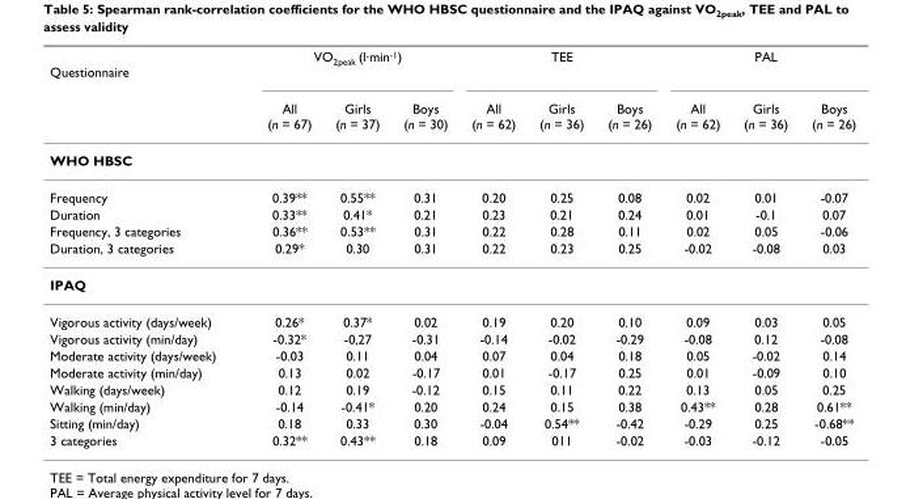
<table><thead><tr><td rowspan="2">Questionnaire</td><td colspan="3">VO<sub>2peak</sub> (l·min<sup>-1</sup>)</td><td colspan="3">TEE</td><td colspan="3">PAL</td></tr><tr><td>All (n = 67)</td><td>Girls (n = 37)</td><td>Boys (n = 30)</td><td>All (n = 62)</td><td>Girls (n = 36)</td><td>Boys (n = 26)</td><td>All (n = 62)</td><td>Girls (n = 36)</td><td>Boys (n = 26)</td></tr></thead><tbody><tr><td colspan="10">WHO HBSC</td></tr><tr><td>Frequency</td><td>0.39**</td><td>0.55**</td><td>0.31</td><td>0.20</td><td>0.25</td><td>0.08</td><td>0.02</td><td>0.01</td><td>-0.07</td></tr><tr><td>Duration</td><td>0.33**</td><td>0.41*</td><td>0.21</td><td>0.23</td><td>0.21</td><td>0.24</td><td>0.01</td><td>-0.1</td><td>0.07</td></tr><tr><td>Frequency, 3 categories</td><td>0.36**</td><td>0.53**</td><td>0.31</td><td>0.22</td><td>0.28</td><td>0.11</td><td>0.02</td><td>0.05</td><td>-0.06</td></tr><tr><td>Duration, 3 categories</td><td>0.29*</td><td>0.30</td><td>0.31</td><td>0.22</td><td>0.23</td><td>0.25</td><td>-0.02</td><td>-0.08</td><td>0.03</td></tr><tr><td colspan="10">IPAQ</td></tr><tr><td>Vigorous activity (days/week)</td><td>0.26*</td><td>0.37*</td><td>0.02</td><td>0.19</td><td>0.20</td><td>0.10</td><td>0.09</td><td>0.03</td><td>0.05</td></tr><tr><td>Vigorous activity (min/day)</td><td>-0.32*</td><td>-0,27</td><td>-0.31</td><td>-0.14</td><td>-0.02</td><td>-0.29</td><td>-0.08</td><td>0.12</td><td>-0.08</td></tr><tr><td>Moderate activity (days/week)</td><td>-0.03</td><td>0.11</td><td>0.04</td><td>0.07</td><td>0.04</td><td>0.18</td><td>0.05</td><td>-0.02</td><td>0.14</td></tr><tr><td>Moderate activity (min/day)</td><td>0.13</td><td>0.02</td><td>-0.17</td><td>0.01</td><td>-0.17</td><td>0.25</td><td>0.01</td><td>-0.09</td><td>0.10</td></tr><tr><td>Walking (days/week)</td><td>0.12</td><td>0.19</td><td>-0.12</td><td>0.15</td><td>0.11</td><td>0.22</td><td>0.13</td><td>0.05</td><td>0.25</td></tr><tr><td>Walking (min/day)</td><td>-0.14</td><td>-0.41*</td><td>0.20</td><td>0.24</td><td>0.15</td><td>0.38</td><td>0.43**</td><td>0.28</td><td>0.61**</td></tr><tr><td>Sitting (min/day)</td><td>0.18</td><td>0.33</td><td>0.30</td><td>-0.04</td><td>0.54**</td><td>-0.42</td><td>-0.29</td><td>0.25</td><td>-0.68**</td></tr><tr><td>3 categories</td><td>0.32**</td><td>0.43**</td><td>0.18</td><td>0.09</td><td>011</td><td>-0.02</td><td>-0.03</td><td>-0.12</td><td>-0.05</td></tr></tbody></table>